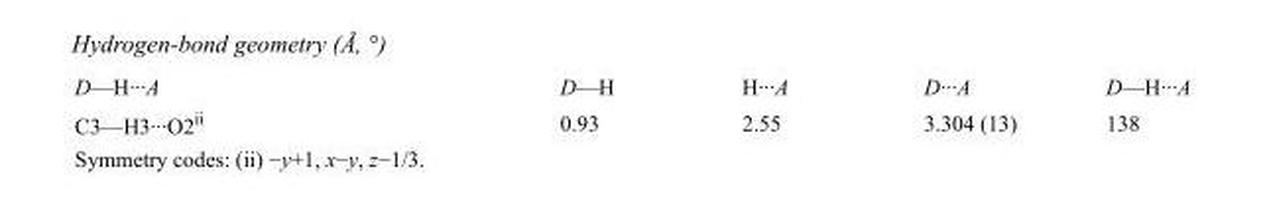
<table><tbody><tr><td>D—H···A</td><td>D—H</td><td>H···A</td><td>D···A</td><td>D—H···A</td></tr><tr><td>C3—H3···O2<sup>ii</sup></td><td>0.93</td><td>2.55</td><td>3.304 (13)</td><td>138</td></tr></tbody></table>